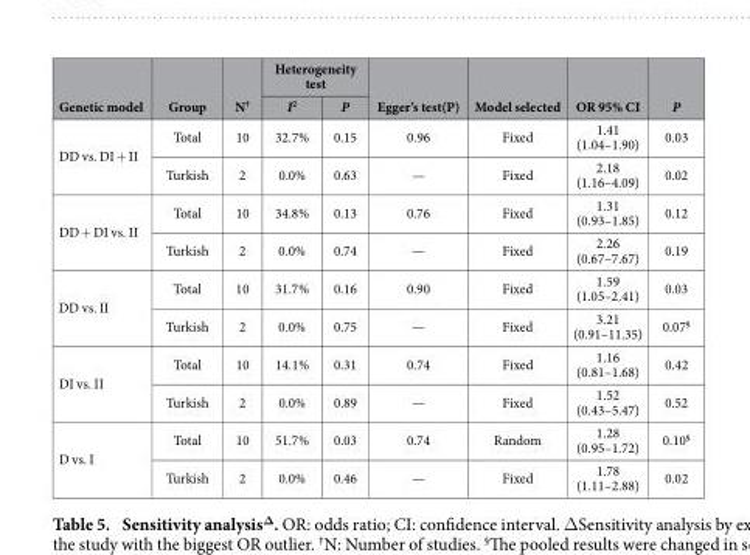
<table><thead><tr><td rowspan="2">Genetic model</td><td rowspan="2">Group</td><td rowspan="2">N†</td><td colspan="2">Heterogeneity test</td><td rowspan="2">Egger’s test(P)</td><td rowspan="2">Model selected</td><td rowspan="2">OR 95% CI</td><td rowspan="2">P</td></tr><tr><td>I<sup>2</sup></td><td>P</td></tr></thead><tbody><tr><td rowspan="2">DD vs. DI + II</td><td>Total</td><td>10</td><td>32.7%</td><td>0.15</td><td>0.96</td><td>Fixed</td><td>1.41 (1.04–1.90)</td><td>0.03</td></tr><tr><td>Turkish</td><td>2</td><td>0.0%</td><td>0.63</td><td>—</td><td>Fixed</td><td>2.18 (1.16–4.09)</td><td>0.02</td></tr><tr><td rowspan="2">DD + DI vs. II</td><td>Total</td><td>10</td><td>34.8%</td><td>0.13</td><td>0.76</td><td>Fixed</td><td>1.31 (0.93–1.85)</td><td>0.12</td></tr><tr><td>Turkish</td><td>2</td><td>0.0%</td><td>0.74</td><td>—</td><td>Fixed</td><td>2.26 (0.67–7.67)</td><td>0.19</td></tr><tr><td rowspan="2">DD vs. II</td><td>Total</td><td>10</td><td>31.7%</td><td>0.16</td><td>0.90</td><td>Fixed</td><td>1.59 (1.05–2.41)</td><td>0.03</td></tr><tr><td>Turkish</td><td>2</td><td>0.0%</td><td>0.75</td><td>—</td><td>Fixed</td><td>3.21 (0.91–11.35)</td><td>0.07§</td></tr><tr><td rowspan="2">DI vs. II</td><td>Total</td><td>10</td><td>14.1%</td><td>0.31</td><td>0.74</td><td>Fixed</td><td>1.16 (0.81–1.68)</td><td>0.42</td></tr><tr><td>Turkish</td><td>2</td><td>0.0%</td><td>0.89</td><td>—</td><td>Fixed</td><td>1.52 (0.43–5.47)</td><td>0.52</td></tr><tr><td rowspan="2">D vs. I</td><td>Total</td><td>10</td><td>51.7%</td><td>0.03</td><td>0.74</td><td>Random</td><td>1.28 (0.95–1.72)</td><td>0.10§</td></tr><tr><td>Turkish</td><td>2</td><td>0.0%</td><td>0.46</td><td>—</td><td>Fixed</td><td>1.78 (1.11–2.88)</td><td>0.02</td></tr></tbody></table>